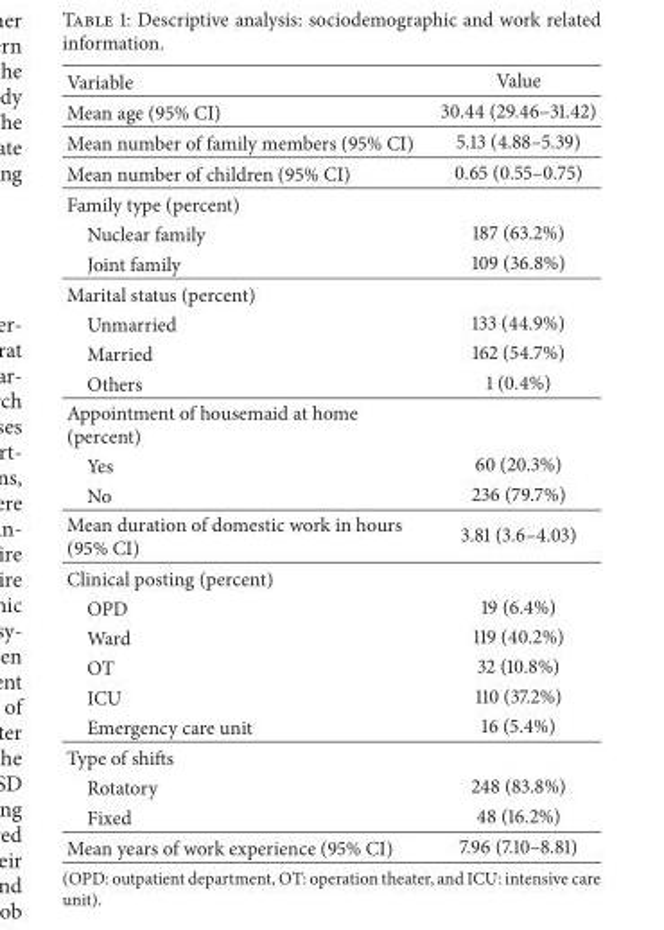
<table><thead><tr><td>Variable</td><td>Value</td></tr></thead><tbody><tr><td>Mean age (95% CI)</td><td>30.44 (29.46–31.42)</td></tr><tr><td>Mean number of family members (95% CI)</td><td>5.13 (4.88–5.39)</td></tr><tr><td>Mean number of children (95% CI)</td><td>0.65 (0.55–0.75)</td></tr><tr><td colspan="2">Family type (percent)</td></tr><tr><td>Nuclear family</td><td>187 (63.2%)</td></tr><tr><td>Joint family</td><td>109 (36.8%)</td></tr><tr><td colspan="2">Marital status (percent)</td></tr><tr><td>Unmarried</td><td>133 (44.9%)</td></tr><tr><td>Married</td><td>162 (54.7%)</td></tr><tr><td>Others</td><td>1 (0.4%)</td></tr><tr><td colspan="2">Appointment of housemaid at home (percent)</td></tr><tr><td>Yes</td><td>60 (20.3%)</td></tr><tr><td>No</td><td>236 (79.7%)</td></tr><tr><td>Mean duration of domestic work in hours (95% CI)</td><td>3.81 (3.6–4.03)</td></tr><tr><td colspan="2">Clinical posting (percent)</td></tr><tr><td>OPD</td><td>19 (6.4%)</td></tr><tr><td>Ward</td><td>119 (40.2%)</td></tr><tr><td>OT</td><td>32 (10.8%)</td></tr><tr><td>ICU</td><td>110 (37.2%)</td></tr><tr><td>Emergency care unit</td><td>16 (5.4%)</td></tr><tr><td colspan="2">Type of shifts</td></tr><tr><td>Rotatory</td><td>248 (83.8%)</td></tr><tr><td>Fixed</td><td>48 (16.2%)</td></tr><tr><td>Mean years of work experience (95% CI)</td><td>7.96 (7.10–8.81)</td></tr></tbody></table>